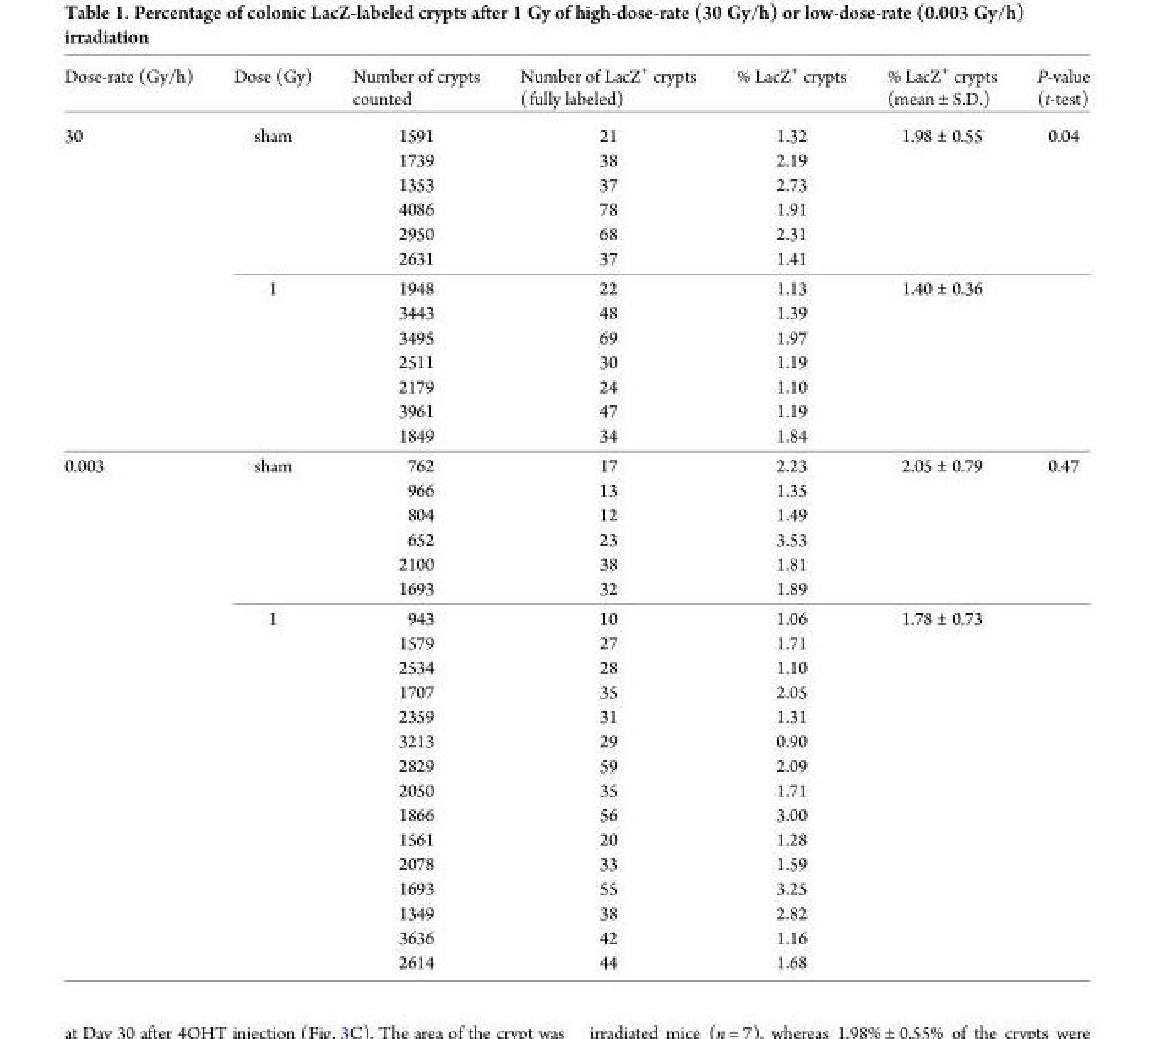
<table><thead><tr><td>Dose-rate (Gy/h)</td><td>Dose (Gy)</td><td>Number of crypts counted</td><td>Number of LacZ<sup>+</sup> crypts (fully labeled)</td><td>% LacZ<sup>+</sup> crypts</td><td>% LacZ<sup>+</sup> crypts (mean ± S.D.)</td><td>P-value (t-test)</td></tr></thead><tbody><tr><td rowspan="13">30</td><td rowspan="6">sham</td><td>1591</td><td>21</td><td>1.32</td><td rowspan="6">1.98 ± 0.55</td><td rowspan="6">0.04</td></tr><tr><td>1739</td><td>38</td><td>2.19</td></tr><tr><td>1353</td><td>37</td><td>2.73</td></tr><tr><td>4086</td><td>78</td><td>1.91</td></tr><tr><td>2950</td><td>68</td><td>2.31</td></tr><tr><td>2631</td><td>37</td><td>1.41</td></tr><tr><td rowspan="7">1</td><td>1948</td><td>22</td><td>1.13</td><td rowspan="7">1.40 ± 0.36</td><td rowspan="7"></td></tr><tr><td>3443</td><td>48</td><td>1.39</td></tr><tr><td>3495</td><td>69</td><td>1.97</td></tr><tr><td>2511</td><td>30</td><td>1.19</td></tr><tr><td>2179</td><td>24</td><td>1.10</td></tr><tr><td>3961</td><td>47</td><td>1.19</td></tr><tr><td>1849</td><td>34</td><td>1.84</td></tr><tr><td rowspan="21">0.003</td><td rowspan="6">sham</td><td>762</td><td>17</td><td>2.23</td><td rowspan="6">2.05 ± 0.79</td><td rowspan="6">0.47</td></tr><tr><td>966</td><td>13</td><td>1.35</td></tr><tr><td>804</td><td>12</td><td>1.49</td></tr><tr><td>652</td><td>23</td><td>3.53</td></tr><tr><td>2100</td><td>38</td><td>1.81</td></tr><tr><td>1693</td><td>32</td><td>1.89</td></tr><tr><td rowspan="15">1</td><td>943</td><td>10</td><td>1.06</td><td rowspan="15">1.78 ± 0.73</td><td rowspan="15"></td></tr><tr><td>1579</td><td>27</td><td>1.71</td></tr><tr><td>2534</td><td>28</td><td>1.10</td></tr><tr><td>1707</td><td>35</td><td>2.05</td></tr><tr><td>2359</td><td>31</td><td>1.31</td></tr><tr><td>3213</td><td>29</td><td>0.90</td></tr><tr><td>2829</td><td>59</td><td>2.09</td></tr><tr><td>2050</td><td>35</td><td>1.71</td></tr><tr><td>1866</td><td>56</td><td>3.00</td></tr><tr><td>1561</td><td>20</td><td>1.28</td></tr><tr><td>2078</td><td>33</td><td>1.59</td></tr><tr><td>1693</td><td>55</td><td>3.25</td></tr><tr><td>1349</td><td>38</td><td>2.82</td></tr><tr><td>3636</td><td>42</td><td>1.16</td></tr><tr><td>2614</td><td>44</td><td>1.68</td></tr></tbody></table>